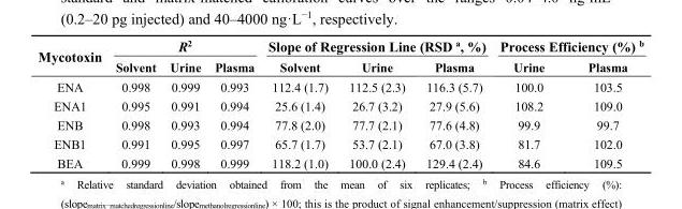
<table><thead><tr><td rowspan="2">Mycotoxin</td><td colspan="3">R<sup>2</sup></td><td colspan="3">Slope of Regression Line (RSD <sup>a</sup>, %)</td><td colspan="2">Process Efficiency (%) <sup>b</sup></td></tr><tr><td>Solvent</td><td>Urine</td><td>Plasma</td><td>Solvent</td><td>Urine</td><td>Plasma</td><td>Urine</td><td>Plasma</td></tr></thead><tbody><tr><td>ENA</td><td>0.998</td><td>0.999</td><td>0.993</td><td>112.4 (1.7)</td><td>112.5 (2.3)</td><td>116.3 (5.7)</td><td>100.0</td><td>103.5</td></tr><tr><td>ENA1</td><td>0.995</td><td>0.991</td><td>0.994</td><td>25.6 (1.4)</td><td>26.7 (3.2)</td><td>27.9 (5.6)</td><td>108.2</td><td>109.0</td></tr><tr><td>ENB</td><td>0.998</td><td>0.993</td><td>0.994</td><td>77.8 (2.0)</td><td>77.7 (2.1)</td><td>77.6 (4.8)</td><td>99.9</td><td>99.7</td></tr><tr><td>ENB1</td><td>0.991</td><td>0.995</td><td>0.997</td><td>65.7 (1.7)</td><td>53.7 (2.1)</td><td>67.0 (3.8)</td><td>81.7</td><td>102.0</td></tr><tr><td>BEA</td><td>0.999</td><td>0.998</td><td>0.999</td><td>118.2 (1.0)</td><td>100.0 (2.4)</td><td>129.4 (2.4)</td><td>84.6</td><td>109.5</td></tr></tbody></table>